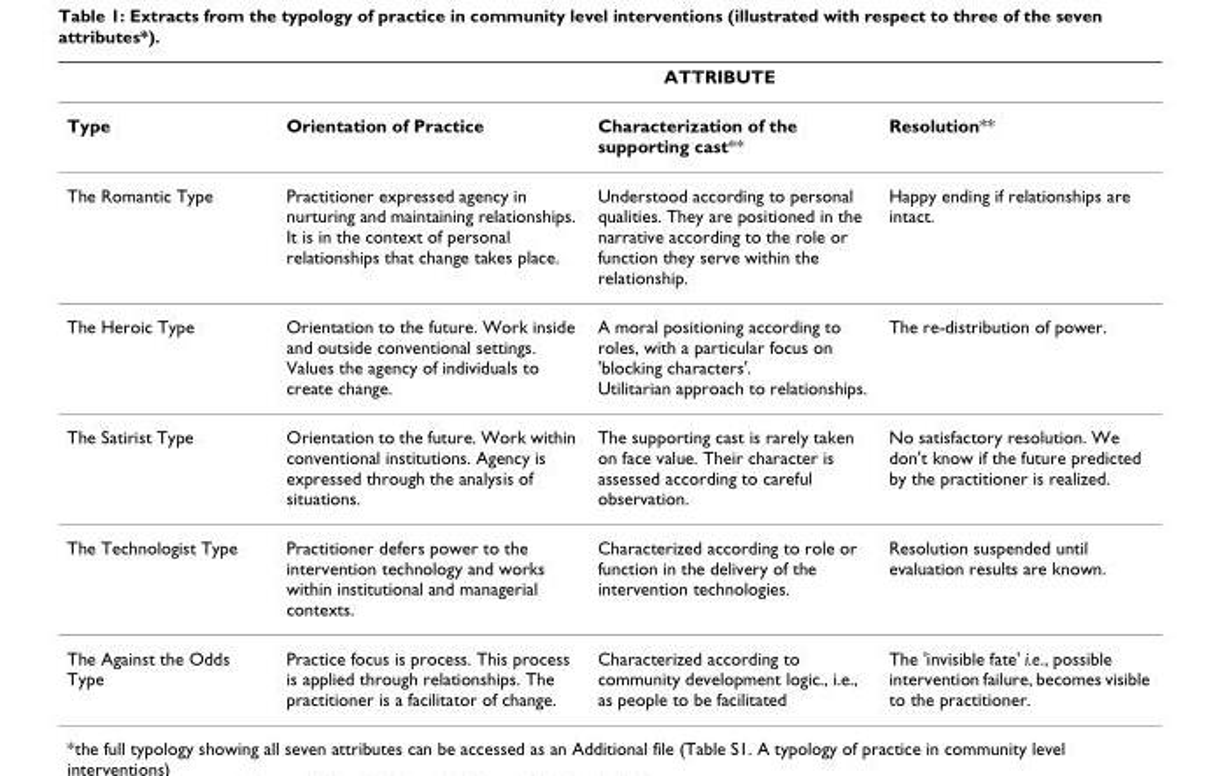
<table><thead><tr><td rowspan="2">Type</td><td colspan="3">ATTRIBUTE</td></tr><tr><td>Orientation of Practice</td><td>Characterization of the supporting cast**</td><td>Resolution**</td></tr></thead><tbody><tr><td>The Romantic Type</td><td>Practitioner expressed agency in nurturing and maintaining relationships. It is in the context of personal relationships that change takes place.</td><td>Understood according to personal qualities. They are positioned in the narrative according to the role or function they serve within the relationship.</td><td>Happy ending if relationships are intact.</td></tr><tr><td>The Heroic Type</td><td>Orientation to the future. Work inside and outside conventional settings. Values the agency of individuals to create change.</td><td>A moral positioning according to roles, with a particular focus on &#x27;blocking characters&#x27;. Utilitarian approach to relationships.</td><td>The re-distribution of power.</td></tr><tr><td>The Satirist Type</td><td>Orientation to the future. Work within conventional institutions. Agency is expressed through the analysis of situations.</td><td>The supporting cast is rarely taken on face value. Their character is assessed according to careful observation.</td><td>No satisfactory resolution. We don&#x27;t know if the future predicted by the practitioner is realized.</td></tr><tr><td>The Technologist Type</td><td>Practitioner defers power to the intervention technology and works within institutional and managerial contexts.</td><td>Characterized according to role or function in the delivery of the intervention technologies.</td><td>Resolution suspended until evaluation results are known.</td></tr><tr><td>The Against the Odds Type</td><td>Practice focus is process. This process is applied through relationships. The practitioner is a facilitator of change.</td><td>Characterized according to community development logic., i.e., as people to be facilitated</td><td>The &#x27;invisible fate&#x27; i.e., possible intervention failure, becomes visible to the practitioner.</td></tr></tbody></table>